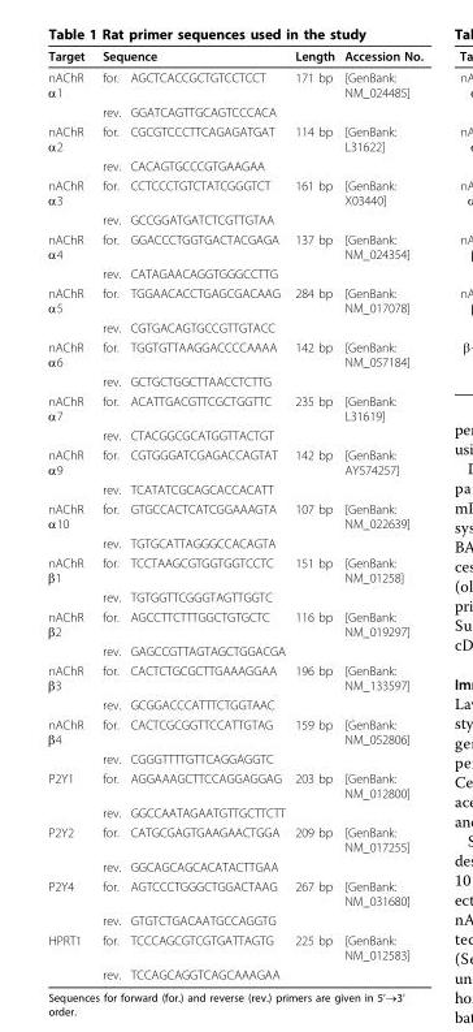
<table><thead><tr><td rowspan="2">Target nAChR α1</td><td colspan="2">Sequence</td><td rowspan="2">Length 171 bp</td><td rowspan="2">Accession No. [GenBank: NM_024485]</td></tr><tr><td>for.</td><td>AGCTCACCGCTGTCCTCCT</td></tr></thead><tbody><tr><td></td><td>rev.</td><td>GGATCAGTTGCAGTCCCACA</td><td></td><td></td></tr><tr><td rowspan="2">nAChR α2</td><td>for.</td><td>CGCGTCCCTTCAGAGATGAT</td><td>114 bp</td><td>[GenBank: L31622]</td></tr><tr><td>rev.</td><td>CACAGTGCCCGTGAAGAA</td><td></td><td></td></tr><tr><td rowspan="2">nAChR α3</td><td>for.</td><td>CCTCCCTGTCTATCGGGTCT</td><td>161 bp</td><td>[GenBank: X03440]</td></tr><tr><td>rev.</td><td>GCCGGATGATCTCGTTGTAA</td><td></td><td></td></tr><tr><td rowspan="2">nAChR α4</td><td>for.</td><td>GGACCCTGGTGACTACGAGA</td><td>137 bp</td><td>[GenBank: NM_024354]</td></tr><tr><td>rev.</td><td>CATAGAACAGGTGGGCCTTG</td><td></td><td></td></tr><tr><td rowspan="2">nAChR α5</td><td>for.</td><td>TGGAACACCTGAGCGACAAG</td><td>284 bp</td><td>[GenBank: NM_017078]</td></tr><tr><td>rev.</td><td>CGTGACAGTGCCGTTGTACC</td><td></td><td></td></tr><tr><td rowspan="2">nAChR α6</td><td>for.</td><td>TGGTGTTAAGGACCCCAAAA</td><td>142 bp</td><td>[GenBank: NM_057184]</td></tr><tr><td>rev.</td><td>GCTGCTGGCTTAACCTCTTG</td><td></td><td></td></tr><tr><td rowspan="2">nAChR α7</td><td>for.</td><td>ACATTGACGTTCGCTGGTTC</td><td>235 bp</td><td>[GenBank: L31619]</td></tr><tr><td>rev.</td><td>CTACGGCGCATGGTTACTGT</td><td></td><td></td></tr><tr><td rowspan="2">nAChR α9</td><td>for.</td><td>CGTGGGATCGAGACCAGTAT</td><td>142 bp</td><td>[GenBank: AY574257]</td></tr><tr><td>rev.</td><td>TCATATCGCAGCACCACATT</td><td></td><td></td></tr><tr><td rowspan="2">nAChR α10</td><td>for.</td><td>GTGCCACTCATCGGAAAGTA</td><td>107 bp</td><td>[GenBank: NM_022639]</td></tr><tr><td>rev.</td><td>TGTGCATTAGGGCCACAGTA</td><td></td><td></td></tr><tr><td rowspan="2">nAChR β1</td><td>for.</td><td>TCCTAAGCGTGGTGGTCCTC</td><td>151 bp</td><td>[GenBank: NM_01258]</td></tr><tr><td>rev.</td><td>TGTGGTTCGGGTAGTTGGTC</td><td></td><td></td></tr><tr><td rowspan="2">nAChR β2</td><td>for.</td><td>AGCCTTCTTTGGCTGTGCTC</td><td>116 bp</td><td>[GenBank: NM_019297]</td></tr><tr><td>rev.</td><td>GAGCCGTTAGTAGCTGGACGA</td><td></td><td></td></tr><tr><td rowspan="2">nAChR β3</td><td>for.</td><td>CACTCTGCGCTTGAAAGGAA</td><td>196 bp</td><td>[GenBank: NM_133597]</td></tr><tr><td>rev.</td><td>GCGGACCCATTTCTGGTAAC</td><td></td><td></td></tr><tr><td rowspan="2">nAChR β4</td><td>for.</td><td>CACTCGCGGTTCCATTGTAG</td><td>159 bp</td><td>[GenBank: NM_052806]</td></tr><tr><td>rev.</td><td>CGGGTTTTGTTCAGGAGGTC</td><td></td><td></td></tr><tr><td rowspan="2">P2Y1</td><td>for.</td><td>AGGAAAGCTTCCAGGAGGAG</td><td>203 bp</td><td>[GenBank: NM_012800]</td></tr><tr><td>rev.</td><td>GGCCAATAGAATGTTGCTTCTT</td><td></td><td></td></tr><tr><td rowspan="2">P2Y2</td><td>for.</td><td>CATGCGAGTGAAGAACTGGA</td><td>209 bp</td><td>[GenBank: NM_017255]</td></tr><tr><td>rev.</td><td>GGCAGCAGCACATACTTGAA</td><td></td><td></td></tr><tr><td rowspan="2">P2Y4</td><td>for.</td><td>AGTCCCTGGGCTGGACTAAG</td><td>267 bp</td><td>[GenBank: NM_031680]</td></tr><tr><td>rev.</td><td>GTGTCTGACAATGCCAGGTG</td><td></td><td></td></tr><tr><td rowspan="2">HPRT1</td><td>for.</td><td>TCCCAGCGTCGTGATTAGTG</td><td>225 bp</td><td>[GenBank: NM_012583]</td></tr><tr><td>rev.</td><td>TCCAGCAGGTCAGCAAAGAA</td><td></td><td></td></tr></tbody></table>